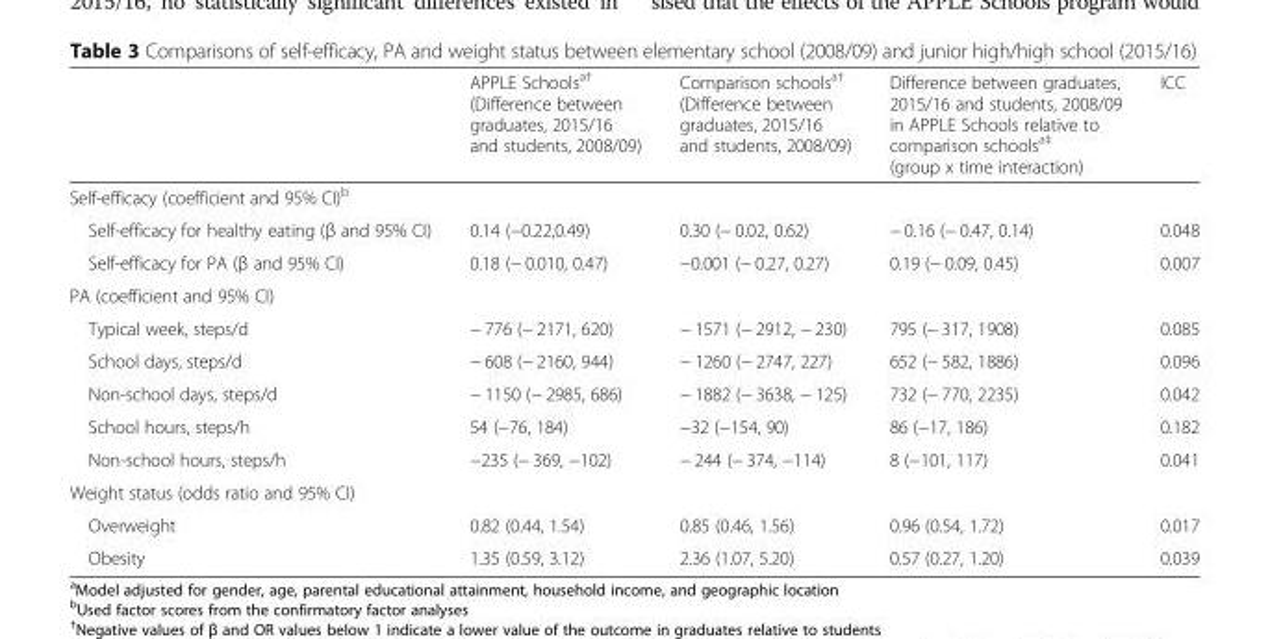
<table><thead><tr><td></td><td>APPLE Schools<sup>a†</sup> (Difference between graduates, 2015/16 and students, 2008/09)</td><td>Comparison schools<sup>a†</sup> (Difference between graduates, 2015/16 and students, 2008/09)</td><td>Difference between graduates, 2015/16 and students, 2008/09 in APPLE Schools relative to comparison schools<sup>a‡</sup> (group x time interaction)</td><td>ICC</td></tr></thead><tbody><tr><td colspan="5">Self-efficacy (coefficient and 95% CI)<sup>b</sup></td></tr><tr><td>Self-efficacy for healthy eating (β and 95% CI)</td><td>0.14 (−0.22,0.49)</td><td>0.30 (− 0.02, 0.62)</td><td>− 0.16 (− 0.47, 0.14)</td><td>0.048</td></tr><tr><td>Self-efficacy for PA (β and 95% CI)</td><td>0.18 (− 0.010, 0.47)</td><td>−0.001 (− 0.27, 0.27)</td><td>0.19 (− 0.09, 0.45)</td><td>0.007</td></tr><tr><td colspan="5">PA (coefficient and 95% CI)</td></tr><tr><td>Typical week, steps/d</td><td>− 776 (− 2171, 620)</td><td>− 1571 (− 2912, − 230)</td><td>795 (− 317, 1908)</td><td>0.085</td></tr><tr><td>School days, steps/d</td><td>− 608 (− 2160, 944)</td><td>− 1260 (− 2747, 227)</td><td>652 (− 582, 1886)</td><td>0.096</td></tr><tr><td>Non-school days, steps/d</td><td>− 1150 (− 2985, 686)</td><td>− 1882 (− 3638, − 125)</td><td>732 (− 770, 2235)</td><td>0.042</td></tr><tr><td>School hours, steps/h</td><td>54 (−76, 184)</td><td>−32 (−154, 90)</td><td>86 (−17, 186)</td><td>0.182</td></tr><tr><td>Non-school hours, steps/h</td><td>−235 (− 369, −102)</td><td>− 244 (− 374, −114)</td><td>8 (−101, 117)</td><td>0.041</td></tr><tr><td colspan="5">Weight status (odds ratio and 95% CI)</td></tr><tr><td>Overweight</td><td>0.82 (0.44, 1.54)</td><td>0.85 (0.46, 1.56)</td><td>0.96 (0.54, 1.72)</td><td>0.017</td></tr><tr><td>Obesity</td><td>1.35 (0.59, 3.12)</td><td>2.36 (1.07, 5.20)</td><td>0.57 (0.27, 1.20)</td><td>0.039</td></tr></tbody></table>